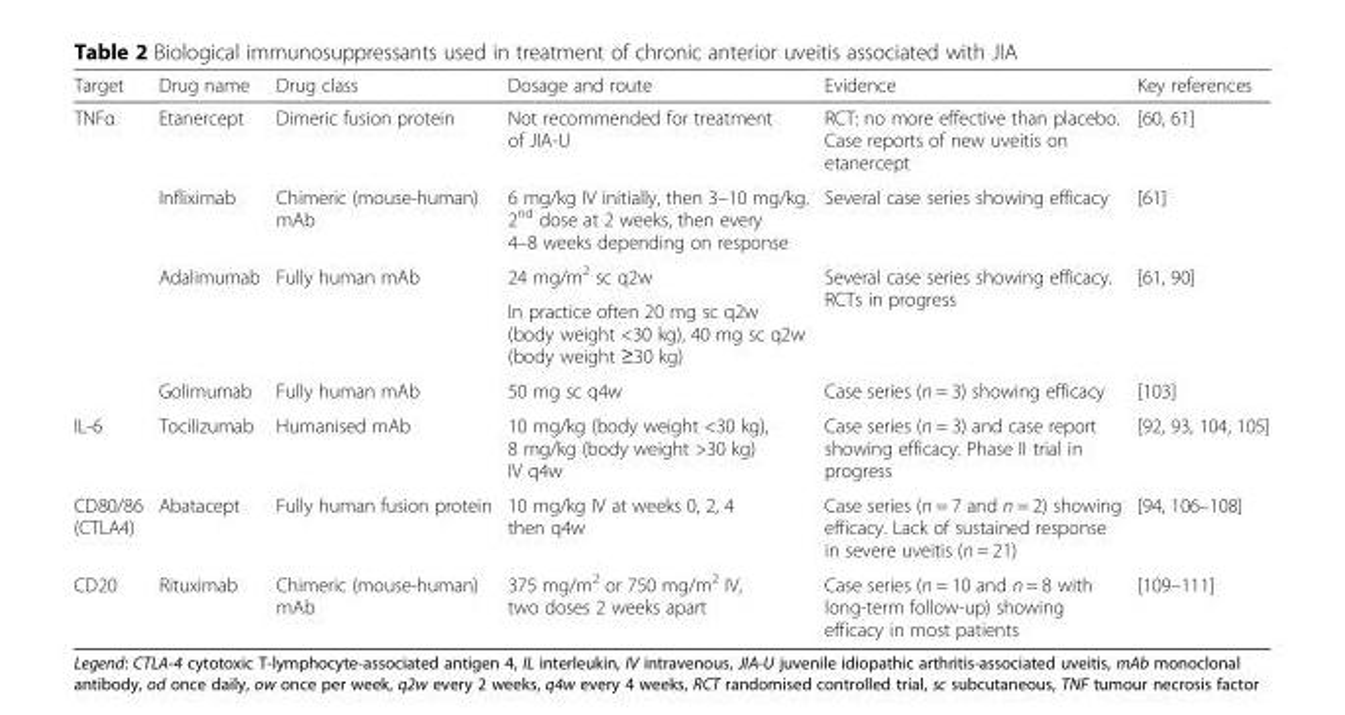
<table><thead><tr><td>Target</td><td>Drug name</td><td>Drug class</td><td>Dosage and route</td><td>Evidence</td><td>Key references</td></tr></thead><tbody><tr><td rowspan="5">TNFα</td><td>Etanercept</td><td>Dimeric fusion protein</td><td>Not recommended for treatment of JIA-U</td><td>RCT: no more effective than placebo. Case reports of new uveitis on etanercept</td><td>[60, 61]</td></tr><tr><td>Infliximab</td><td>Chimeric (mouse-human) mAb</td><td>6 mg/kg IV initially, then 3–10 mg/kg. 2<sup>nd</sup> dose at 2 weeks, then every 4–8 weeks depending on response</td><td>Several case series showing efficacy</td><td>[61]</td></tr><tr><td rowspan="2">Adalimumab</td><td rowspan="2">Fully human mAb</td><td>24 mg/m<sup>2</sup> sc q2w</td><td rowspan="2">Several case series showing efficacy. RCTs in progress</td><td rowspan="2">[61, 90]</td></tr><tr><td>In practice often 20 mg sc q2w (body weight &lt;30 kg), 40 mg sc q2w (body weight ≥30 kg)</td></tr><tr><td>Golimumab</td><td>Fully human mAb</td><td>50 mg sc q4w</td><td>Case series (n = 3) showing efficacy</td><td>[103]</td></tr><tr><td>IL-6</td><td>Tocilizumab</td><td>Humanised mAb</td><td>10 mg/kg (body weight &lt;30 kg), 8 mg/kg (body weight &gt;30 kg) IV q4w</td><td>Case series (n = 3) and case report showing efficacy. Phase II trial in progress</td><td>[92, 93, 104, 105]</td></tr><tr><td>CD80/86 (CTLA4)</td><td>Abatacept</td><td>Fully human fusion protein</td><td>10 mg/kg IV at weeks 0, 2, 4 then q4w</td><td>Case series (n = 7 and n = 2) showing efficacy. Lack of sustained response in severe uveitis (n = 21)</td><td>[94, 106–108]</td></tr><tr><td>CD20</td><td>Rituximab</td><td>Chimeric (mouse-human) mAb</td><td>375 mg/m<sup>2</sup> or 750 mg/m<sup>2</sup> IV, two doses 2 weeks apart</td><td>Case series (n = 10 and n = 8 with long-term follow-up) showing efficacy in most patients</td><td>[109–111]</td></tr></tbody></table>